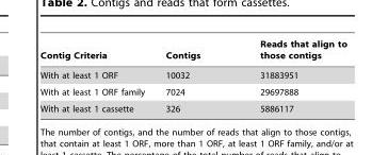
<table><thead><tr><td>Contig Criteria</td><td>Contigs</td><td>Reads that align to those contigs</td></tr></thead><tbody><tr><td>With at least 1 ORF</td><td>10032</td><td>31883951</td></tr><tr><td>With at least 1 ORF family</td><td>7024</td><td>29697888</td></tr><tr><td>With at least 1 cassette</td><td>326</td><td>5886117</td></tr></tbody></table>